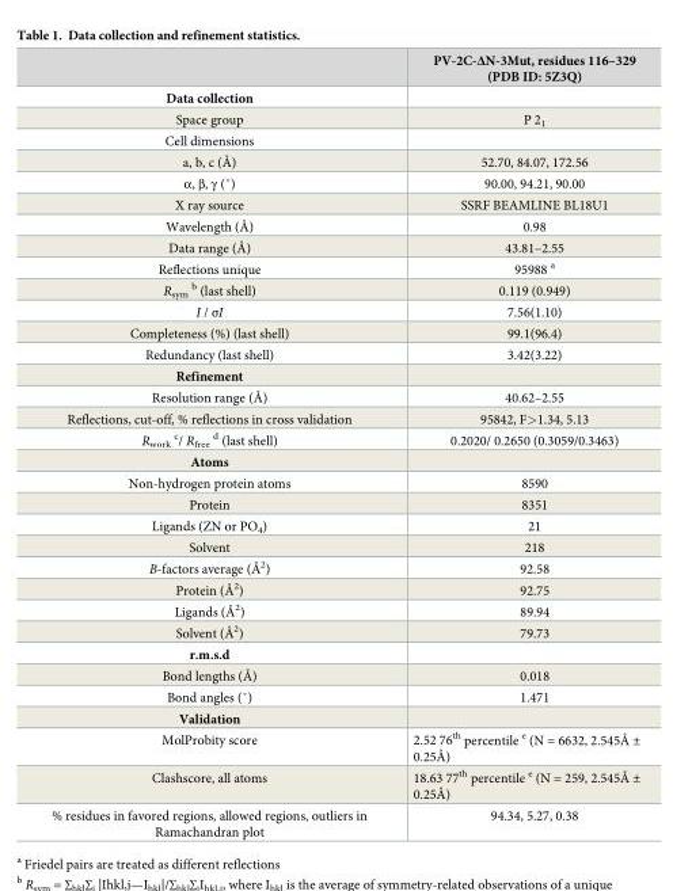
<table><thead><tr><td></td><td>PV-2C-ΔN-3Mut, residues 116–329 (PDB ID: 5Z3Q)</td></tr></thead><tbody><tr><td colspan="2">Data collection</td></tr><tr><td>Space group</td><td>P 2<sub>1</sub></td></tr><tr><td colspan="2">Cell dimensions</td></tr><tr><td>a, b, c (Å)</td><td>52.70, 84.07, 172.56</td></tr><tr><td>α, β, γ (˚)</td><td>90.00, 94.21, 90.00</td></tr><tr><td>X ray source</td><td>SSRF BEAMLINE BL18U1</td></tr><tr><td>Wavelength (Å)</td><td>0.98</td></tr><tr><td>Data range (Å)</td><td>43.81–2.55</td></tr><tr><td>Reflections unique</td><td>95988 <sup>a</sup></td></tr><tr><td>R<sub>sym</sub> <sup>b</sup> (last shell)</td><td>0.119 (0.949)</td></tr><tr><td>I / σI</td><td>7.56(1.10)</td></tr><tr><td>Completeness (%) (last shell)</td><td>99.1(96.4)</td></tr><tr><td>Redundancy (last shell)</td><td>3.42(3.22)</td></tr><tr><td colspan="2">Refinement</td></tr><tr><td>Resolution range (Å)</td><td>40.62–2.55</td></tr><tr><td>Reflections, cut-off, % reflections in cross validation</td><td>95842, F&gt;1.34, 5.13</td></tr><tr><td>R<sub>work</sub> <sup>c</sup>/ R<sub>free</sub> <sup>d</sup> (last shell)</td><td>0.2020/ 0.2650 (0.3059/0.3463)</td></tr><tr><td colspan="2">Atoms</td></tr><tr><td>Non-hydrogen protein atoms</td><td>8590</td></tr><tr><td>Protein</td><td>8351</td></tr><tr><td>Ligands (ZN or PO<sub>4</sub>)</td><td>21</td></tr><tr><td>Solvent</td><td>218</td></tr><tr><td>B-factors average (Å<sup>2</sup>)</td><td>92.58</td></tr><tr><td>Protein (Å<sup>2</sup>)</td><td>92.75</td></tr><tr><td>Ligands (Å<sup>2</sup>)</td><td>89.94</td></tr><tr><td>Solvent (Å<sup>2</sup>)</td><td>79.73</td></tr><tr><td colspan="2">r.m.s.d</td></tr><tr><td>Bond lengths (Å)</td><td>0.018</td></tr><tr><td>Bond angles (˚)</td><td>1.471</td></tr><tr><td colspan="2">Validation</td></tr><tr><td>MolProbity score</td><td>2.52 76<sup>th</sup> percentile <sup>e</sup> (N = 6632, 2.545Å ± 0.25Å)</td></tr><tr><td>Clashscore, all atoms</td><td>18.63 77<sup>th</sup> percentile <sup>e</sup> (N = 259, 2.545Å ± 0.25Å)</td></tr><tr><td>% residues in favored regions, allowed regions, outliers in Ramachandran plot</td><td>94.34, 5.27, 0.38</td></tr></tbody></table>